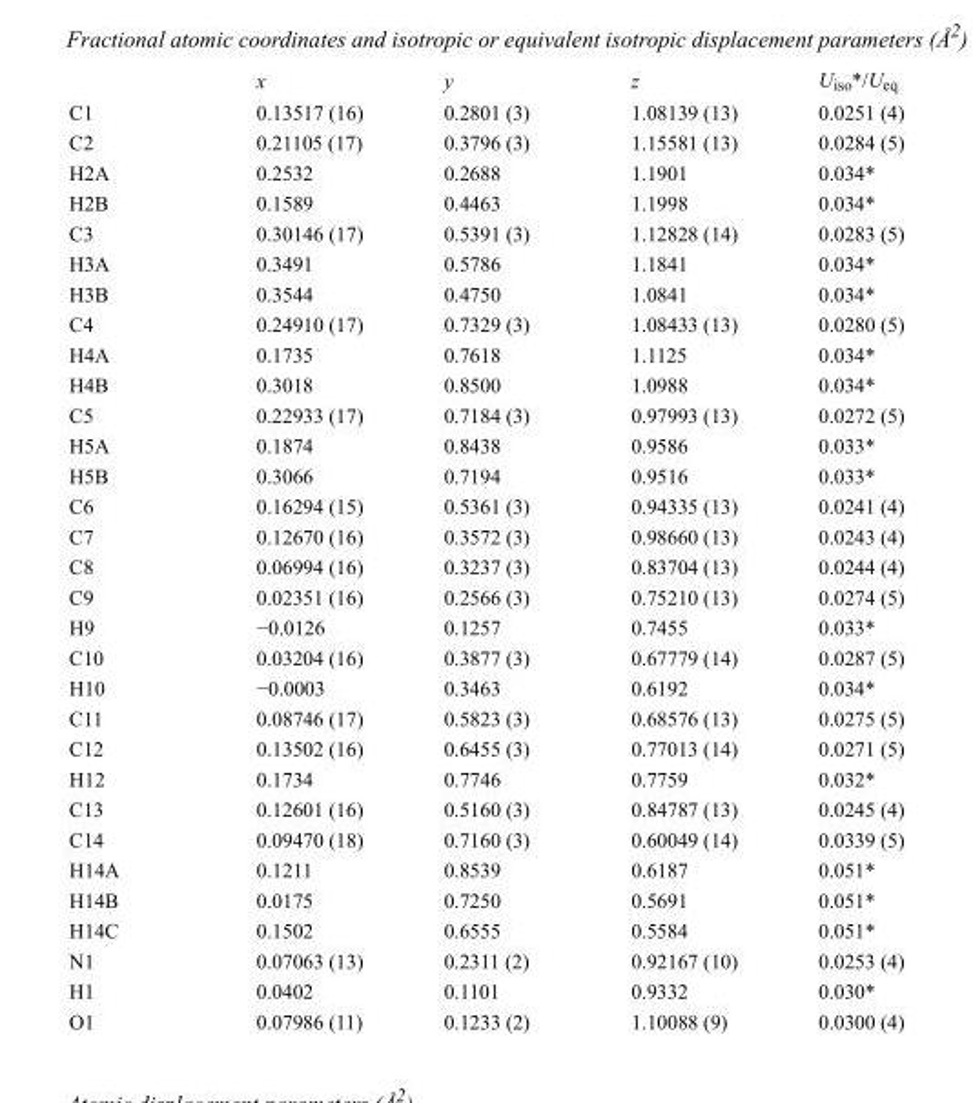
<table><thead><tr><td></td><td>x</td><td>y</td><td>z</td><td>U<sub>iso</sub>*/U<sub>eq</sub></td></tr></thead><tbody><tr><td>C1</td><td>0.13517 (16)</td><td>0.2801 (3)</td><td>1.08139 (13)</td><td>0.0251 (4)</td></tr><tr><td>C2</td><td>0.21105 (17)</td><td>0.3796 (3)</td><td>1.15581 (13)</td><td>0.0284 (5)</td></tr><tr><td>H2A</td><td>0.2532</td><td>0.2688</td><td>1.1901</td><td>0.034*</td></tr><tr><td>H2B</td><td>0.1589</td><td>0.4463</td><td>1.1998</td><td>0.034*</td></tr><tr><td>C3</td><td>0.30146 (17)</td><td>0.5391 (3)</td><td>1.12828 (14)</td><td>0.0283 (5)</td></tr><tr><td>H3A</td><td>0.3491</td><td>0.5786</td><td>1.1841</td><td>0.034*</td></tr><tr><td>H3B</td><td>0.3544</td><td>0.4750</td><td>1.0841</td><td>0.034*</td></tr><tr><td>C4</td><td>0.24910 (17)</td><td>0.7329 (3)</td><td>1.08433 (13)</td><td>0.0280 (5)</td></tr><tr><td>H4A</td><td>0.1735</td><td>0.7618</td><td>1.1125</td><td>0.034*</td></tr><tr><td>H4B</td><td>0.3018</td><td>0.8500</td><td>1.0988</td><td>0.034*</td></tr><tr><td>C5</td><td>0.22933 (17)</td><td>0.7184 (3)</td><td>0.97993 (13)</td><td>0.0272 (5)</td></tr><tr><td>H5A</td><td>0.1874</td><td>0.8438</td><td>0.9586</td><td>0.033*</td></tr><tr><td>H5B</td><td>0.3066</td><td>0.7194</td><td>0.9516</td><td>0.033*</td></tr><tr><td>C6</td><td>0.16294 (15)</td><td>0.5361 (3)</td><td>0.94335 (13)</td><td>0.0241 (4)</td></tr><tr><td>C7</td><td>0.12670 (16)</td><td>0.3572 (3)</td><td>0.98660 (13)</td><td>0.0243 (4)</td></tr><tr><td>C8</td><td>0.06994 (16)</td><td>0.3237 (3)</td><td>0.83704 (13)</td><td>0.0244 (4)</td></tr><tr><td>C9</td><td>0.02351 (16)</td><td>0.2566 (3)</td><td>0.75210 (13)</td><td>0.0274 (5)</td></tr><tr><td>H9</td><td>−0.0126</td><td>0.1257</td><td>0.7455</td><td>0.033*</td></tr><tr><td>C10</td><td>0.03204 (16)</td><td>0.3877 (3)</td><td>0.67779 (14)</td><td>0.0287 (5)</td></tr><tr><td>H10</td><td>−0.0003</td><td>0.3463</td><td>0.6192</td><td>0.034*</td></tr><tr><td>C11</td><td>0.08746 (17)</td><td>0.5823 (3)</td><td>0.68576 (13)</td><td>0.0275 (5)</td></tr><tr><td>C12</td><td>0.13502 (16)</td><td>0.6455 (3)</td><td>0.77013 (14)</td><td>0.0271 (5)</td></tr><tr><td>H12</td><td>0.1734</td><td>0.7746</td><td>0.7759</td><td>0.032*</td></tr><tr><td>C13</td><td>0.12601 (16)</td><td>0.5160 (3)</td><td>0.84787 (13)</td><td>0.0245 (4)</td></tr><tr><td>C14</td><td>0.09470 (18)</td><td>0.7160 (3)</td><td>0.60049 (14)</td><td>0.0339 (5)</td></tr><tr><td>H14A</td><td>0.1211</td><td>0.8539</td><td>0.6187</td><td>0.051*</td></tr><tr><td>H14B</td><td>0.0175</td><td>0.7250</td><td>0.5691</td><td>0.051*</td></tr><tr><td>H14C</td><td>0.1502</td><td>0.6555</td><td>0.5584</td><td>0.051*</td></tr><tr><td>N1</td><td>0.07063 (13)</td><td>0.2311 (2)</td><td>0.92167 (10)</td><td>0.0253 (4)</td></tr><tr><td>H1</td><td>0.0402</td><td>0.1101</td><td>0.9332</td><td>0.030*</td></tr><tr><td>O1</td><td>0.07986 (11)</td><td>0.1233 (2)</td><td>1.10088 (9)</td><td>0.0300 (4)</td></tr></tbody></table>